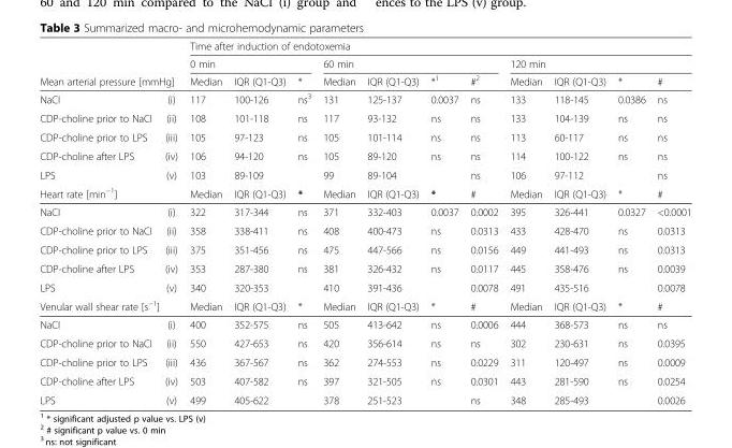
<table><thead><tr><td rowspan="2"></td><td rowspan="2"></td><td colspan="11">Time after induction of endotoxemia</td></tr><tr><td colspan="3">0 min</td><td colspan="4">60 min</td><td colspan="4">120 min</td></tr><tr><td colspan="2">Mean arterial pressure [mmHg]</td><td>Median</td><td>IQR (Q1-Q3)</td><td>*</td><td>Median</td><td>IQR (Q1-Q3)</td><td>*<sup>1</sup></td><td>#<sup>2</sup></td><td>Median</td><td>IQR (Q1-Q3)</td><td>*</td><td>#</td></tr></thead><tbody><tr><td>NaCI</td><td>(i)</td><td>117</td><td>100-126</td><td>ns<sup>3</sup></td><td>131</td><td>125-137</td><td>0.0037</td><td>ns</td><td>133</td><td>118-145</td><td>0.0386</td><td>ns</td></tr><tr><td>CDP-choline prior to NaCI</td><td>(ii)</td><td>108</td><td>101-118</td><td>ns</td><td>117</td><td>93-132</td><td>ns</td><td>ns</td><td>133</td><td>104-139</td><td>ns</td><td>ns</td></tr><tr><td>CDP-choline prior to LPS</td><td>(iii)</td><td>105</td><td>97-123</td><td>ns</td><td>105</td><td>101-114</td><td>ns</td><td>ns</td><td>113</td><td>60-117</td><td>ns</td><td>ns</td></tr><tr><td>CDP-choline after LPS</td><td>(iv)</td><td>106</td><td>94-120</td><td>ns</td><td>105</td><td>89-120</td><td>ns</td><td>ns</td><td>114</td><td>100-122</td><td>ns</td><td>ns</td></tr><tr><td>LPS</td><td>(v)</td><td>103</td><td>89-109</td><td></td><td>99</td><td>89-104</td><td></td><td>ns</td><td>106</td><td>97-112</td><td></td><td>ns</td></tr><tr><td colspan="2">Heart rate [min<sup>−1</sup>]</td><td>Median</td><td>IQR (Q1-Q3)</td><td>*</td><td>Median</td><td>IQR (Q1-Q3)</td><td>*</td><td>#</td><td>Median</td><td>IQR (Q1-Q3)</td><td>*</td><td>#</td></tr><tr><td>NaCI</td><td>(i)</td><td>322</td><td>317-344</td><td>ns</td><td>371</td><td>332-403</td><td>0.0037</td><td>0.0002</td><td>395</td><td>326-441</td><td>0.0327</td><td>&lt;0.0001</td></tr><tr><td>CDP-choline prior to NaCI</td><td>(ii)</td><td>358</td><td>338-411</td><td>ns</td><td>408</td><td>400-473</td><td>ns</td><td>0.0313</td><td>433</td><td>428-470</td><td>ns</td><td>0.0313</td></tr><tr><td>CDP-choline prior to LPS</td><td>(iii)</td><td>375</td><td>351-456</td><td>ns</td><td>475</td><td>447-566</td><td>ns</td><td>0.0156</td><td>449</td><td>441-493</td><td>ns</td><td>0.0313</td></tr><tr><td>CDP-choline after LPS</td><td>(iv)</td><td>353</td><td>287-380</td><td>ns</td><td>381</td><td>326-432</td><td>ns</td><td>0.0117</td><td>445</td><td>358-476</td><td>ns</td><td>0.0039</td></tr><tr><td>LPS</td><td>(v)</td><td>340</td><td>320-353</td><td></td><td>410</td><td>391-436</td><td></td><td>0.0078</td><td>491</td><td>435-516</td><td></td><td>0.0078</td></tr><tr><td colspan="2">Venular wall shear rate [s<sup>−1</sup>]</td><td>Median</td><td>IQR (Q1-Q3)</td><td>*</td><td>Median</td><td>IQR (Q1-Q3)</td><td>*</td><td>#</td><td>Median</td><td>IQR (Q1-Q3)</td><td>*</td><td>#</td></tr><tr><td>NaCI</td><td>(i)</td><td>400</td><td>352-575</td><td>ns</td><td>505</td><td>413-642</td><td>ns</td><td>0.0006</td><td>444</td><td>368-573</td><td>ns</td><td>ns</td></tr><tr><td>CDP-choline prior to NaCI</td><td>(ii)</td><td>550</td><td>427-653</td><td>ns</td><td>420</td><td>356-614</td><td>ns</td><td>ns</td><td>302</td><td>230-631</td><td>ns</td><td>0.0395</td></tr><tr><td>CDP-choline prior to LPS</td><td>(iii)</td><td>436</td><td>367-567</td><td>ns</td><td>362</td><td>274-553</td><td>ns</td><td>0.0229</td><td>311</td><td>120-497</td><td>ns</td><td>0.0009</td></tr><tr><td>CDP-choline after LPS</td><td>(iv)</td><td>503</td><td>407-582</td><td>ns</td><td>397</td><td>321-505</td><td>ns</td><td>0.0301</td><td>443</td><td>281-590</td><td>ns</td><td>0.0254</td></tr><tr><td>LPS</td><td>(v)</td><td>499</td><td>405-622</td><td></td><td>378</td><td>251-523</td><td></td><td>ns</td><td>348</td><td>285-493</td><td></td><td>0.0026</td></tr></tbody></table>